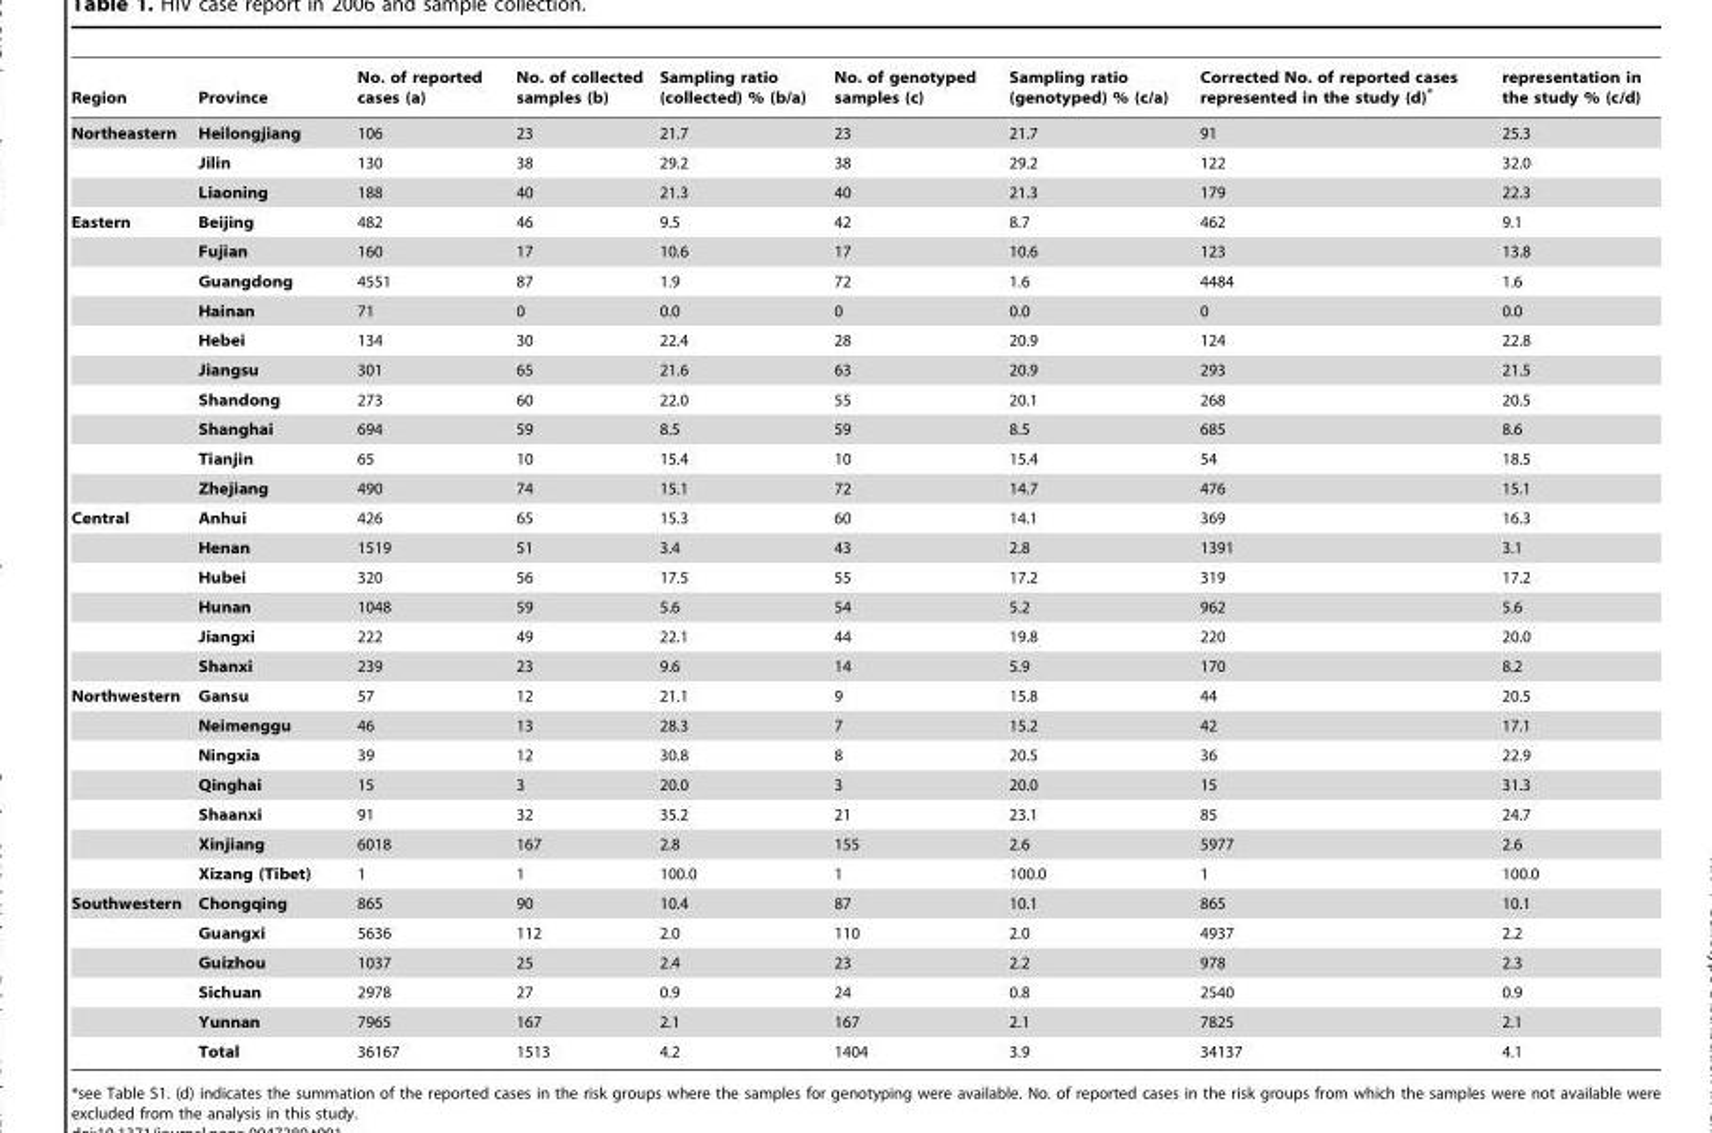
<table><thead><tr><td>Region</td><td>Province</td><td>No. of reported cases (a)</td><td>No. of collected samples (b)</td><td>Sampling ratio (collected) % (b/a)</td><td>No. of genotyped samples (c)</td><td>Sampling ratio (genotyped) % (c/a)</td><td>Corrected No. of reported cases represented in the study (d)*</td><td>representation in the study % (c/d)</td></tr></thead><tbody><tr><td rowspan="3">Northeastern</td><td>Heilongjiang</td><td>106</td><td>23</td><td>21.7</td><td>23</td><td>21.7</td><td>91</td><td>25.3</td></tr><tr><td>Jilin</td><td>130</td><td>38</td><td>29.2</td><td>38</td><td>29.2</td><td>122</td><td>32.0</td></tr><tr><td>Liaoning</td><td>188</td><td>40</td><td>21.3</td><td>40</td><td>21.3</td><td>179</td><td>22.3</td></tr><tr><td rowspan="10">Eastern</td><td>Beijing</td><td>482</td><td>46</td><td>9.5</td><td>42</td><td>8.7</td><td>462</td><td>9.1</td></tr><tr><td>Fujian</td><td>160</td><td>17</td><td>10.6</td><td>17</td><td>10.6</td><td>123</td><td>13.8</td></tr><tr><td>Guangdong</td><td>4551</td><td>87</td><td>1.9</td><td>72</td><td>1.6</td><td>4484</td><td>1.6</td></tr><tr><td>Hainan</td><td>71</td><td>0</td><td>0.0</td><td>0</td><td>0.0</td><td>0</td><td>0.0</td></tr><tr><td>Hebei</td><td>134</td><td>30</td><td>22.4</td><td>28</td><td>20.9</td><td>124</td><td>22.8</td></tr><tr><td>Jiangsu</td><td>301</td><td>65</td><td>21.6</td><td>63</td><td>20.9</td><td>293</td><td>21.5</td></tr><tr><td>Shandong</td><td>273</td><td>60</td><td>22.0</td><td>55</td><td>20.1</td><td>268</td><td>20.5</td></tr><tr><td>Shanghai</td><td>694</td><td>59</td><td>8.5</td><td>59</td><td>8.5</td><td>685</td><td>8.6</td></tr><tr><td>Tianjin</td><td>65</td><td>10</td><td>15.4</td><td>10</td><td>15.4</td><td>54</td><td>18.5</td></tr><tr><td>Zhejiang</td><td>490</td><td>74</td><td>15.1</td><td>72</td><td>14.7</td><td>476</td><td>15.1</td></tr><tr><td rowspan="6">Central</td><td>Anhui</td><td>426</td><td>65</td><td>15.3</td><td>60</td><td>14.1</td><td>369</td><td>16.3</td></tr><tr><td>Henan</td><td>1519</td><td>51</td><td>3.4</td><td>43</td><td>2.8</td><td>1391</td><td>3.1</td></tr><tr><td>Hubei</td><td>320</td><td>56</td><td>17.5</td><td>55</td><td>17.2</td><td>319</td><td>17.2</td></tr><tr><td>Hunan</td><td>1048</td><td>59</td><td>5.6</td><td>54</td><td>5.2</td><td>962</td><td>5.6</td></tr><tr><td>Jiangxi</td><td>222</td><td>49</td><td>22.1</td><td>44</td><td>19.8</td><td>220</td><td>20.0</td></tr><tr><td>Shanxi</td><td>239</td><td>23</td><td>9.6</td><td>14</td><td>5.9</td><td>170</td><td>8.2</td></tr><tr><td rowspan="7">Northwestern</td><td>Gansu</td><td>57</td><td>12</td><td>21.1</td><td>9</td><td>15.8</td><td>44</td><td>20.5</td></tr><tr><td>Neimenggu</td><td>46</td><td>13</td><td>28.3</td><td>7</td><td>15.2</td><td>42</td><td>17.1</td></tr><tr><td>Ningxia</td><td>39</td><td>12</td><td>30.8</td><td>8</td><td>20.5</td><td>36</td><td>22.9</td></tr><tr><td>Qinghai</td><td>15</td><td>3</td><td>20.0</td><td>3</td><td>20.0</td><td>15</td><td>31.3</td></tr><tr><td>Shaanxi</td><td>91</td><td>32</td><td>35.2</td><td>21</td><td>23.1</td><td>85</td><td>24.7</td></tr><tr><td>Xinjiang</td><td>6018</td><td>167</td><td>2.8</td><td>155</td><td>2.6</td><td>5977</td><td>2.6</td></tr><tr><td>Xizang (Tibet)</td><td>1</td><td>1</td><td>100.0</td><td>1</td><td>100.0</td><td>1</td><td>100.0</td></tr><tr><td rowspan="6">Southwestern</td><td>Chongqing</td><td>865</td><td>90</td><td>10.4</td><td>87</td><td>10.1</td><td>865</td><td>10.1</td></tr><tr><td>Guangxi</td><td>5636</td><td>112</td><td>2.0</td><td>110</td><td>2.0</td><td>4937</td><td>2.2</td></tr><tr><td>Guizhou</td><td>1037</td><td>25</td><td>2.4</td><td>23</td><td>2.2</td><td>978</td><td>2.3</td></tr><tr><td>Sichuan</td><td>2978</td><td>27</td><td>0.9</td><td>24</td><td>0.8</td><td>2540</td><td>0.9</td></tr><tr><td>Yunnan</td><td>7965</td><td>167</td><td>2.1</td><td>167</td><td>2.1</td><td>7825</td><td>2.1</td></tr><tr><td>Total</td><td>36167</td><td>1513</td><td>4.2</td><td>1404</td><td>3.9</td><td>34137</td><td>4.1</td></tr></tbody></table>